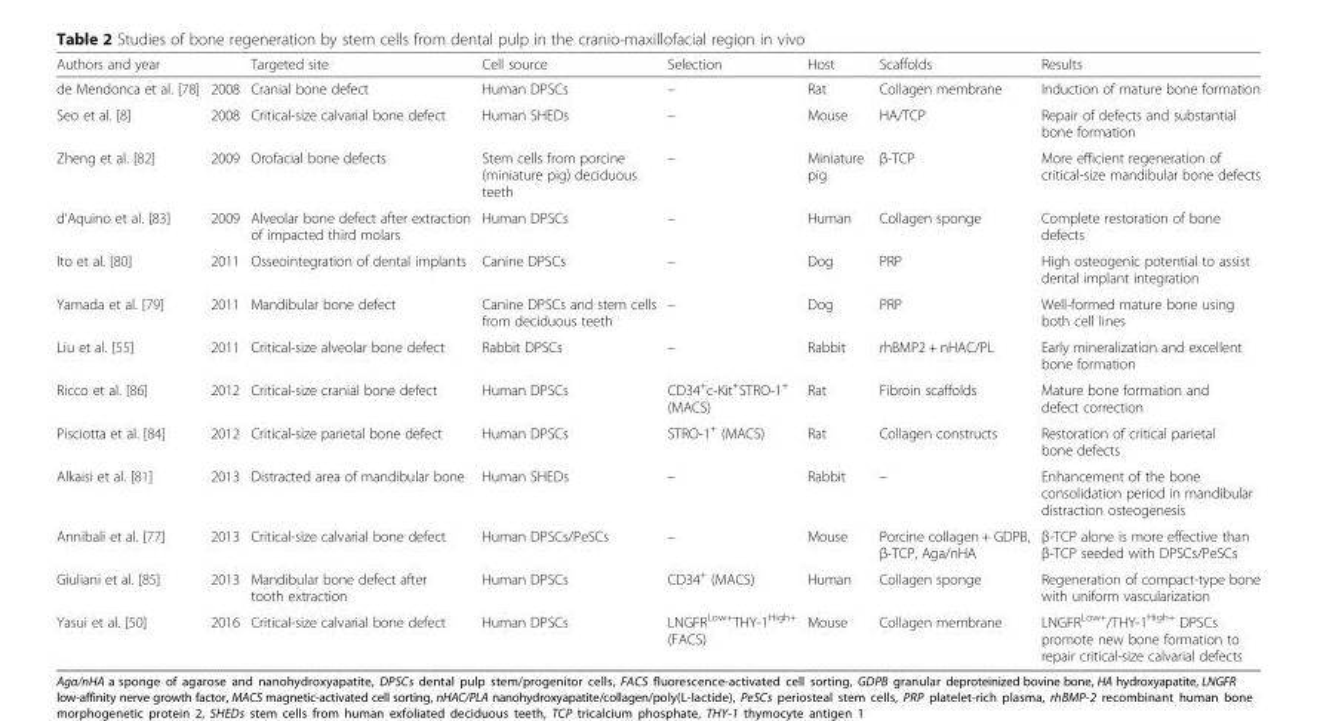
<table><thead><tr><td>Authors and year</td><td></td><td>Targeted site</td><td>Cell source</td><td>Selection</td><td>Host</td><td>Scaffolds</td><td>Results</td></tr></thead><tbody><tr><td>de Mendonca et al. [78]</td><td>2008</td><td>Cranial bone defect</td><td>Human DPSCs</td><td>–</td><td>Rat</td><td>Collagen membrane</td><td>Induction of mature bone formation</td></tr><tr><td>Seo et al. [8]</td><td>2008</td><td>Critical-size calvarial bone defect</td><td>Human SHEDs</td><td>–</td><td>Mouse</td><td>HA/TCP</td><td>Repair of defects and substantial bone formation</td></tr><tr><td>Zheng et al. [82]</td><td>2009</td><td>Orofacial bone defects</td><td>Stem cells from porcine (miniature pig) deciduous teeth</td><td>–</td><td>Miniature pig</td><td>β-TCP</td><td>More efficient regeneration of critical-size mandibular bone defects</td></tr><tr><td>d’Aquino et al. [83]</td><td>2009</td><td>Alveolar bone defect after extraction of impacted third molars</td><td>Human DPSCs</td><td>–</td><td>Human</td><td>Collagen sponge</td><td>Complete restoration of bone defects</td></tr><tr><td>Ito et al. [80]</td><td>2011</td><td>Osseointegration of dental implants</td><td>Canine DPSCs</td><td>–</td><td>Dog</td><td>PRP</td><td>High osteogenic potential to assist dental implant integration</td></tr><tr><td>Yamada et al. [79]</td><td>2011</td><td>Mandibular bone defect</td><td>Canine DPSCs and stem cells from deciduous teeth</td><td>–</td><td>Dog</td><td>PRP</td><td>Well-formed mature bone using both cell lines</td></tr><tr><td>Liu et al. [55]</td><td>2011</td><td>Critical-size alveolar bone defect</td><td>Rabbit DPSCs</td><td>–</td><td>Rabbit</td><td>rhBMP2 + nHAC/PL</td><td>Early mineralization and excellent bone formation</td></tr><tr><td>Ricco et al. [86]</td><td>2012</td><td>Critical-size cranial bone defect</td><td>Human DPSCs</td><td>CD34<sup>+</sup>c-Kit<sup>+</sup>STRO-1<sup>+</sup> (MACS)</td><td>Rat</td><td>Fibroin scaffolds</td><td>Mature bone formation and defect correction</td></tr><tr><td>Pisciotta et al. [84]</td><td>2012</td><td>Critical-size parietal bone defect</td><td>Human DPSCs</td><td>STRO-1<sup>+</sup> (MACS)</td><td>Rat</td><td>Collagen constructs</td><td>Restoration of critical parietal bone defects</td></tr><tr><td>Alkaisi et al. [81]</td><td>2013</td><td>Distracted area of mandibular bone</td><td>Human SHEDs</td><td>–</td><td>Rabbit</td><td>–</td><td>Enhancement of the bone consolidation period in mandibular distraction osteogenesis</td></tr><tr><td>Annibali et al. [77]</td><td>2013</td><td>Critical-size calvarial bone defect</td><td>Human DPSCs/PeSCs</td><td>–</td><td>Mouse</td><td>Porcine collagen + GDPB, β-TCP, Aga/nHA</td><td>β-TCP alone is more effective than β-TCP seeded with DPSCs/PeSCs</td></tr><tr><td>Giuliani et al. [85]</td><td>2013</td><td>Mandibular bone defect after tooth extraction</td><td>Human DPSCs</td><td>CD34<sup>+</sup> (MACS)</td><td>Human</td><td>Collagen sponge</td><td>Regeneration of compact-type bone with uniform vascularization</td></tr><tr><td>Yasui et al. [50]</td><td>2016</td><td>Critical-size calvarial bone defect</td><td>Human DPSCs</td><td>LNGFR<sup>Low+</sup>THY-1<sup>High+</sup> (FACS)</td><td>Mouse</td><td>Collagen membrane</td><td>LNGFR<sup>Low+</sup>/THY-1<sup>High+</sup> DPSCs promote new bone formation to repair critical-size calvarial defects</td></tr></tbody></table>